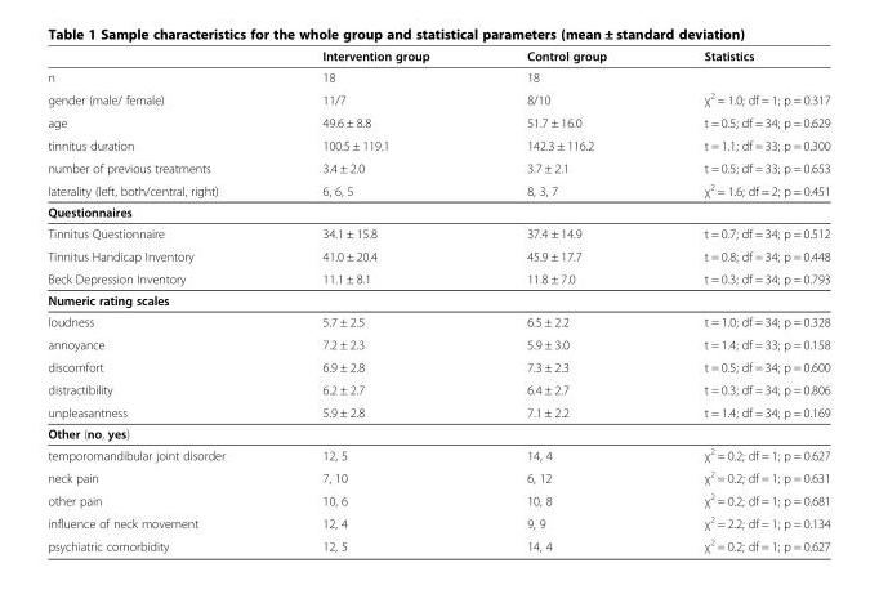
<table><thead><tr><td></td><td>Intervention group</td><td>Control group</td><td>Statistics</td></tr></thead><tbody><tr><td>n</td><td>18</td><td>18</td><td></td></tr><tr><td>gender (male/ female)</td><td>11/7</td><td>8/10</td><td>χ<sup>2</sup> = 1.0; df = 1; p = 0.317</td></tr><tr><td>age</td><td>49.6 ± 8.8</td><td>51.7 ± 16.0</td><td>t = 0.5; df = 34; p = 0.629</td></tr><tr><td>tinnitus duration</td><td>100.5 ± 119.1</td><td>142.3 ± 116.2</td><td>t = 1.1; df = 33; p = 0.300</td></tr><tr><td>number of previous treatments</td><td>3.4 ± 2.0</td><td>3.7 ± 2.1</td><td>t = 0.5; df = 33; p = 0.653</td></tr><tr><td>laterality (left, both/central, right)</td><td>6, 6, 5</td><td>8, 3, 7</td><td>χ<sup>2</sup> = 1.6; df = 2; p = 0.451</td></tr><tr><td colspan="4">Questionnaires</td></tr><tr><td>Tinnitus Questionnaire</td><td>34.1 ± 15.8</td><td>37.4 ± 14.9</td><td>t = 0.7; df = 34; p = 0.512</td></tr><tr><td>Tinnitus Handicap Inventory</td><td>41.0 ± 20.4</td><td>45.9 ± 17.7</td><td>t = 0.8; df = 34; p = 0.448</td></tr><tr><td>Beck Depression Inventory</td><td>11.1 ± 8.1</td><td>11.8 ± 7.0</td><td>t = 0.3; df = 34; p = 0.793</td></tr><tr><td colspan="4">Numeric rating scales</td></tr><tr><td>loudness</td><td>5.7 ± 2.5</td><td>6.5 ± 2.2</td><td>t = 1.0; df = 34; p = 0.328</td></tr><tr><td>annoyance</td><td>7.2 ± 2.3</td><td>5.9 ± 3.0</td><td>t = 1.4; df = 33; p = 0.158</td></tr><tr><td>discomfort</td><td>6.9 ± 2.8</td><td>7.3 ± 2.3</td><td>t = 0.5; df = 34; p = 0.600</td></tr><tr><td>distractibility</td><td>6.2 ± 2.7</td><td>6.4 ± 2.7</td><td>t = 0.3; df = 34; p = 0.806</td></tr><tr><td>unpleasantness</td><td>5.9 ± 2.8</td><td>7.1 ± 2.2</td><td>t = 1.4; df = 34; p = 0.169</td></tr><tr><td colspan="4">Other (no, yes)</td></tr><tr><td>temporomandibular joint disorder</td><td>12, 5</td><td>14, 4</td><td>χ<sup>2</sup> = 0.2; df = 1; p = 0.627</td></tr><tr><td>neck pain</td><td>7, 10</td><td>6, 12</td><td>χ<sup>2</sup> = 0.2; df = 1; p = 0.631</td></tr><tr><td>other pain</td><td>10, 6</td><td>10, 8</td><td>χ<sup>2</sup> = 0.2; df = 1; p = 0.681</td></tr><tr><td>influence of neck movement</td><td>12, 4</td><td>9, 9</td><td>χ<sup>2</sup> = 2.2; df = 1; p = 0.134</td></tr><tr><td>psychiatric comorbidity</td><td>12, 5</td><td>14, 4</td><td>χ<sup>2</sup> = 0.2; df = 1; p = 0.627</td></tr></tbody></table>